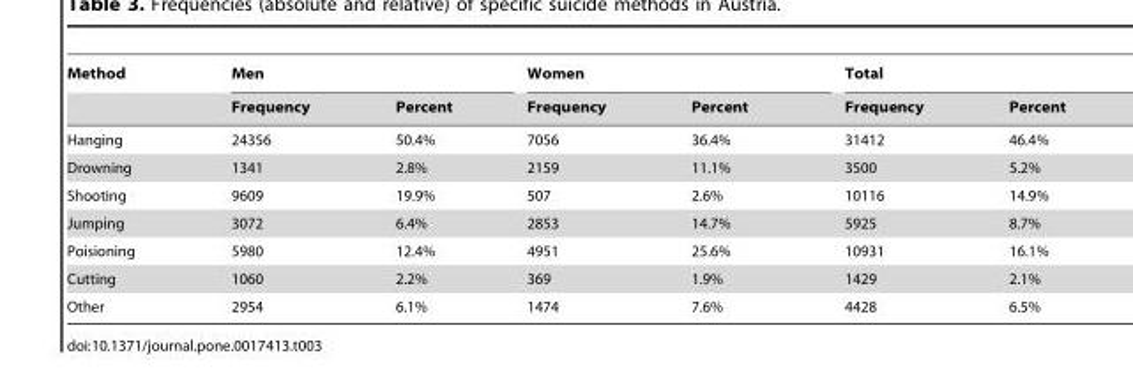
<table><thead><tr><td rowspan="2">Method</td><td colspan="2">Men</td><td colspan="2">Women</td><td colspan="2">Total</td></tr><tr><td>Frequency</td><td>Percent</td><td>Frequency</td><td>Percent</td><td>Frequency</td><td>Percent</td></tr></thead><tbody><tr><td>Hanging</td><td>24356</td><td>50.4%</td><td>7056</td><td>36.4%</td><td>31412</td><td>46.4%</td></tr><tr><td>Drowning</td><td>1341</td><td>2.8%</td><td>2159</td><td>11.1%</td><td>3500</td><td>5.2%</td></tr><tr><td>Shooting</td><td>9609</td><td>19.9%</td><td>507</td><td>2.6%</td><td>10116</td><td>14.9%</td></tr><tr><td>Jumping</td><td>3072</td><td>6.4%</td><td>2853</td><td>14.7%</td><td>5925</td><td>8.7%</td></tr><tr><td>Poisioning</td><td>5980</td><td>12.4%</td><td>4951</td><td>25.6%</td><td>10931</td><td>16.1%</td></tr><tr><td>Cutting</td><td>1060</td><td>2.2%</td><td>369</td><td>1.9%</td><td>1429</td><td>2.1%</td></tr><tr><td>Other</td><td>2954</td><td>6.1%</td><td>1474</td><td>7.6%</td><td>4428</td><td>6.5%</td></tr></tbody></table>